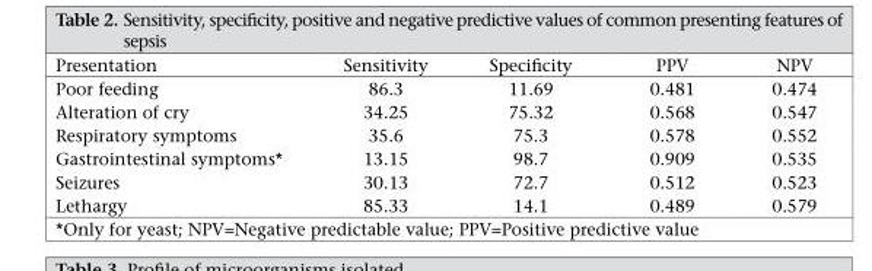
<table><thead><tr><td>Presentation</td><td>Sensitivity</td><td>Specificity</td><td>PPV</td><td>NPV</td></tr></thead><tbody><tr><td>Poor feeding</td><td>86.3</td><td>11.69</td><td>0.481</td><td>0.474</td></tr><tr><td>Alteration of cry</td><td>34.25</td><td>75.32</td><td>0.568</td><td>0.547</td></tr><tr><td>Respiratory symptoms</td><td>35.6</td><td>75.3</td><td>0.578</td><td>0.552</td></tr><tr><td>Gastrointestinal symptoms*</td><td>13.15</td><td>98.7</td><td>0.909</td><td>0.535</td></tr><tr><td>Seizures</td><td>30.13</td><td>72.7</td><td>0.512</td><td>0.523</td></tr><tr><td>Lethargy</td><td>85.33</td><td>14.1</td><td>0.489</td><td>0.579</td></tr></tbody></table>